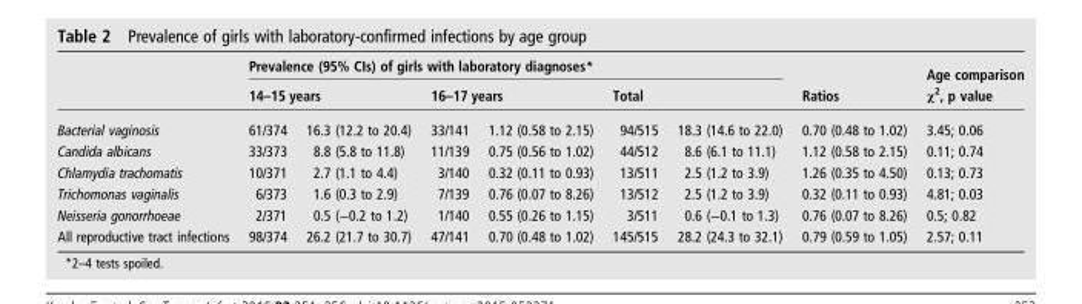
<table><thead><tr><td rowspan="3">Bacterial vaginosis</td><td colspan="6">Prevalence (95% CIs) of girls with laboratory diagnoses*</td><td rowspan="3">Ratios 0.70 (0.48 to 1.02)</td><td rowspan="3">Age comparison χ<sup>2</sup>, p value 3.45; 0.06</td></tr><tr><td colspan="2">14–15 years</td><td colspan="2">16–17 years</td><td colspan="2">Total</td></tr><tr><td>61/374</td><td>16.3 (12.2 to 20.4)</td><td>33/141</td><td>1.12 (0.58 to 2.15)</td><td>94/515</td><td>18.3 (14.6 to 22.0)</td></tr></thead><tbody><tr><td>Candida albicans</td><td>33/373</td><td>8.8 (5.8 to 11.8)</td><td>11/139</td><td>0.75 (0.56 to 1.02)</td><td>44/512</td><td>8.6 (6.1 to 11.1)</td><td>1.12 (0.58 to 2.15)</td><td>0.11; 0.74</td></tr><tr><td>Chlamydia trachomatis</td><td>10/371</td><td>2.7 (1.1 to 4.4)</td><td>3/140</td><td>0.32 (0.11 to 0.93)</td><td>13/511</td><td>2.5 (1.2 to 3.9)</td><td>1.26 (0.35 to 4.50)</td><td>0.13; 0.73</td></tr><tr><td>Trichomonas vaginalis</td><td>6/373</td><td>1.6 (0.3 to 2.9)</td><td>7/139</td><td>0.76 (0.07 to 8.26)</td><td>13/512</td><td>2.5 (1.2 to 3.9)</td><td>0.32 (0.11 to 0.93)</td><td>4.81; 0.03</td></tr><tr><td>Neisseria gonorrhoeae</td><td>2/371</td><td>0.5 (−0.2 to 1.2)</td><td>1/140</td><td>0.55 (0.26 to 1.15)</td><td>3/511</td><td>0.6 (−0.1 to 1.3)</td><td>0.76 (0.07 to 8.26)</td><td>0.5; 0.82</td></tr><tr><td>All reproductive tract infections</td><td>98/374</td><td>26.2 (21.7 to 30.7)</td><td>47/141</td><td>0.70 (0.48 to 1.02)</td><td>145/515</td><td>28.2 (24.3 to 32.1)</td><td>0.79 (0.59 to 1.05)</td><td>2.57; 0.11</td></tr></tbody></table>